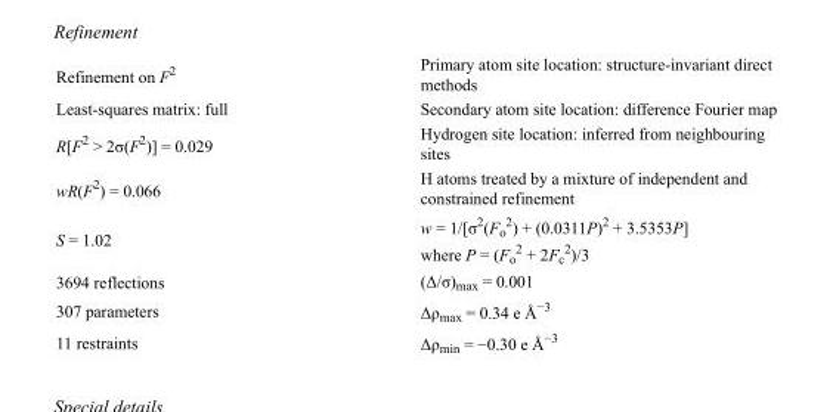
<table><tbody><tr><td>Refinement on F<sup>2</sup></td><td>Primary atom site location: structure-invariant direct methods</td></tr><tr><td>Least-squares matrix: full</td><td>Secondary atom site location: difference Fourier map</td></tr><tr><td>R[F<sup>2</sup> &gt; 2σ(F<sup>2</sup>)] = 0.029</td><td>Hydrogen site location: inferred from neighbouring sites</td></tr><tr><td>wR(F<sup>2</sup>) = 0.066</td><td>H atoms treated by a mixture of independent and constrained refinement</td></tr><tr><td>S = 1.02</td><td>w = 1/[σ<sup>2</sup>(F<sub>o</sub> <sup>2</sup>) + (0.0311P)<sup>2</sup> + 3.5353P] where P = (F<sub>o</sub> <sup>2</sup> + 2F<sub>c</sub> <sup>2</sup>)/3</td></tr><tr><td>3694 reflections</td><td>(Δ/σ)<sub>max</sub> = 0.001</td></tr><tr><td>307 parameters</td><td>Δρ<sub>max</sub> = 0.34 e Å<sup>−3</sup></td></tr><tr><td>11 restraints</td><td>Δρ<sub>min</sub> = −0.30 e Å<sup>−3</sup></td></tr></tbody></table>